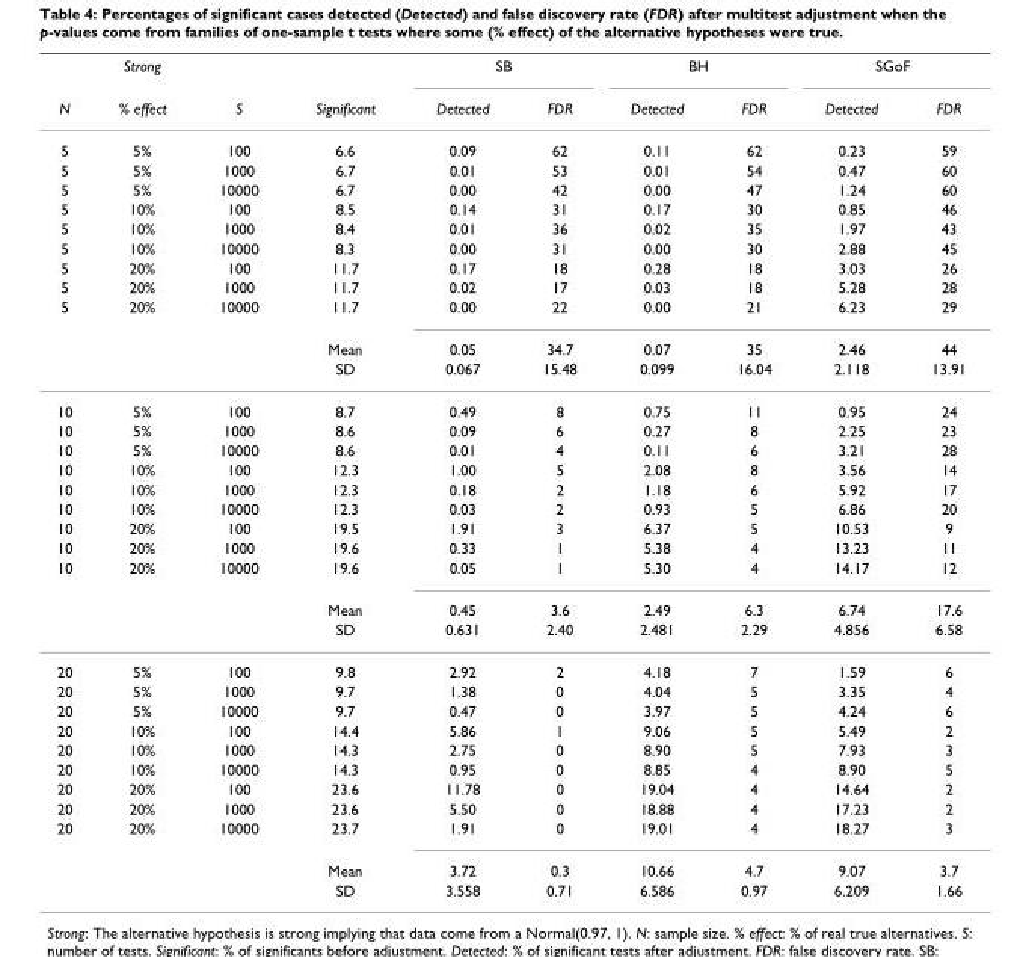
<table><thead><tr><td rowspan="2">N</td><td rowspan="2">Strong % effect</td><td rowspan="2">S</td><td rowspan="2">Significant</td><td colspan="2">SB</td><td colspan="2">BH</td><td colspan="2">SGoF</td></tr><tr><td>Detected</td><td>FDR</td><td>Detected</td><td>FDR</td><td>Detected</td><td>FDR</td></tr></thead><tbody><tr><td>5</td><td>5%</td><td>100</td><td>6.6</td><td>0.09</td><td>62</td><td>0.11</td><td>62</td><td>0.23</td><td>59</td></tr><tr><td>5</td><td>5%</td><td>1000</td><td>6.7</td><td>0.01</td><td>53</td><td>0.01</td><td>54</td><td>0.47</td><td>60</td></tr><tr><td>5</td><td>5%</td><td>10000</td><td>6.7</td><td>0.00</td><td>42</td><td>0.00</td><td>47</td><td>1.24</td><td>60</td></tr><tr><td>5</td><td>10%</td><td>100</td><td>8.5</td><td>0.14</td><td>31</td><td>0.17</td><td>30</td><td>0.85</td><td>46</td></tr><tr><td>5</td><td>10%</td><td>1000</td><td>8.4</td><td>0.01</td><td>36</td><td>0.02</td><td>35</td><td>1.97</td><td>43</td></tr><tr><td>5</td><td>10%</td><td>10000</td><td>8.3</td><td>0.00</td><td>31</td><td>0.00</td><td>30</td><td>2.88</td><td>45</td></tr><tr><td>5</td><td>20%</td><td>100</td><td>11.7</td><td>0.17</td><td>18</td><td>0.28</td><td>18</td><td>3.03</td><td>26</td></tr><tr><td>5</td><td>20%</td><td>1000</td><td>11.7</td><td>0.02</td><td>17</td><td>0.03</td><td>18</td><td>5.28</td><td>28</td></tr><tr><td rowspan="3">5</td><td>20%</td><td>10000</td><td>11.7</td><td>0.00</td><td>22</td><td>0.00</td><td>21</td><td>6.23</td><td>29</td></tr><tr><td></td><td></td><td>Mean</td><td>0.05</td><td>34.7</td><td>0.07</td><td>35</td><td>2.46</td><td>44</td></tr><tr><td></td><td></td><td>SD</td><td>0.067</td><td>15.48</td><td>0.099</td><td>16.04</td><td>2.118</td><td>13.91</td></tr><tr><td>10</td><td>5%</td><td>100</td><td>8.7</td><td>0.49</td><td>8</td><td>0.75</td><td>11</td><td>0.95</td><td>24</td></tr><tr><td>10</td><td>5%</td><td>1000</td><td>8.6</td><td>0.09</td><td>6</td><td>0.27</td><td>8</td><td>2.25</td><td>23</td></tr><tr><td>10</td><td>5%</td><td>10000</td><td>8.6</td><td>0.01</td><td>4</td><td>0.11</td><td>6</td><td>3.21</td><td>28</td></tr><tr><td>10</td><td>10%</td><td>100</td><td>12.3</td><td>1.00</td><td>5</td><td>2.08</td><td>8</td><td>3.56</td><td>14</td></tr><tr><td>10</td><td>10%</td><td>1000</td><td>12.3</td><td>0.18</td><td>2</td><td>1.18</td><td>6</td><td>5.92</td><td>17</td></tr><tr><td>10</td><td>10%</td><td>10000</td><td>12.3</td><td>0.03</td><td>2</td><td>0.93</td><td>5</td><td>6.86</td><td>20</td></tr><tr><td>10</td><td>20%</td><td>100</td><td>19.5</td><td>1.91</td><td>3</td><td>6.37</td><td>5</td><td>10.53</td><td>9</td></tr><tr><td>10</td><td>20%</td><td>1000</td><td>19.6</td><td>0.33</td><td>1</td><td>5.38</td><td>4</td><td>13.23</td><td>11</td></tr><tr><td rowspan="3">10</td><td>20%</td><td>10000</td><td>19.6</td><td>0.05</td><td>1</td><td>5.30</td><td>4</td><td>14.17</td><td>12</td></tr><tr><td></td><td></td><td>Mean</td><td>0.45</td><td>3.6</td><td>2.49</td><td>6.3</td><td>6.74</td><td>17.6</td></tr><tr><td></td><td></td><td>SD</td><td>0.631</td><td>2.40</td><td>2.481</td><td>2.29</td><td>4.856</td><td>6.58</td></tr><tr><td>20</td><td>5%</td><td>100</td><td>9.8</td><td>2.92</td><td>2</td><td>4.18</td><td>7</td><td>1.59</td><td>6</td></tr><tr><td>20</td><td>5%</td><td>1000</td><td>9.7</td><td>1.38</td><td>0</td><td>4.04</td><td>5</td><td>3.35</td><td>4</td></tr><tr><td>20</td><td>5%</td><td>10000</td><td>9.7</td><td>0.47</td><td>0</td><td>3.97</td><td>5</td><td>4.24</td><td>6</td></tr><tr><td>20</td><td>10%</td><td>100</td><td>14.4</td><td>5.86</td><td>1</td><td>9.06</td><td>5</td><td>5.49</td><td>2</td></tr><tr><td>20</td><td>10%</td><td>1000</td><td>14.3</td><td>2.75</td><td>0</td><td>8.90</td><td>5</td><td>7.93</td><td>3</td></tr><tr><td>20</td><td>10%</td><td>10000</td><td>14.3</td><td>0.95</td><td>0</td><td>8.85</td><td>4</td><td>8.90</td><td>5</td></tr><tr><td>20</td><td>20%</td><td>100</td><td>23.6</td><td>11.78</td><td>0</td><td>19.04</td><td>4</td><td>14.64</td><td>2</td></tr><tr><td>20</td><td>20%</td><td>1000</td><td>23.6</td><td>5.50</td><td>0</td><td>18.88</td><td>4</td><td>17.23</td><td>2</td></tr><tr><td rowspan="3">20</td><td>20%</td><td>10000</td><td>23.7</td><td>1.91</td><td>0</td><td>19.01</td><td>4</td><td>18.27</td><td>3</td></tr><tr><td></td><td></td><td>Mean</td><td>3.72</td><td>0.3</td><td>10.66</td><td>4.7</td><td>9.07</td><td>3.7</td></tr><tr><td></td><td></td><td>SD</td><td>3.558</td><td>0.71</td><td>6.586</td><td>0.97</td><td>6.209</td><td>1.66</td></tr></tbody></table>